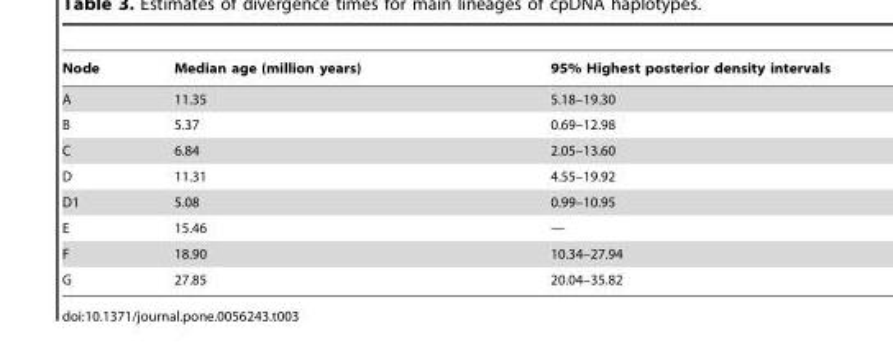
<table><thead><tr><td>Node</td><td>Median age (million years)</td><td>95% Highest posterior density intervals</td></tr></thead><tbody><tr><td>A</td><td>11.35</td><td>5.18–19.30</td></tr><tr><td>B</td><td>5.37</td><td>0.69–12.98</td></tr><tr><td>C</td><td>6.84</td><td>2.05–13.60</td></tr><tr><td>D</td><td>11.31</td><td>4.55–19.92</td></tr><tr><td>D1</td><td>5.08</td><td>0.99–10.95</td></tr><tr><td>E</td><td>15.46</td><td>—</td></tr><tr><td>F</td><td>18.90</td><td>10.34–27.94</td></tr><tr><td>G</td><td>27.85</td><td>20.04–35.82</td></tr></tbody></table>